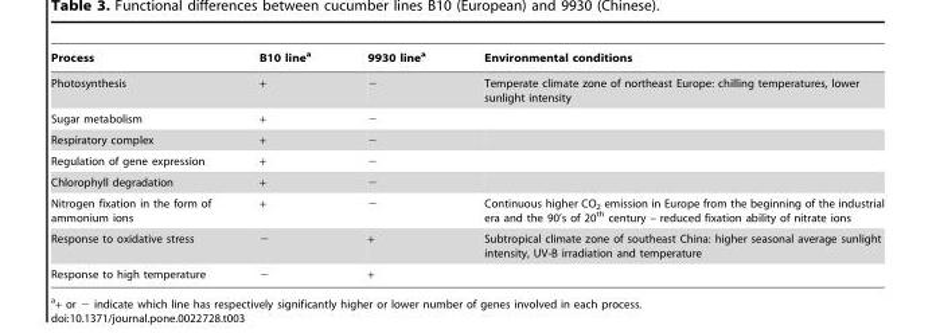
<table><thead><tr><td>Process</td><td>B10 line<sup>a</sup></td><td>9930 line<sup>a</sup></td><td>Environmental conditions</td></tr></thead><tbody><tr><td>Photosynthesis</td><td>+</td><td>−</td><td>Temperate climate zone of northeast Europe: chilling temperatures, lower sunlight intensity</td></tr><tr><td>Sugar metabolism</td><td>+</td><td>−</td><td></td></tr><tr><td>Respiratory complex</td><td>+</td><td>−</td><td></td></tr><tr><td>Regulation of gene expression</td><td>+</td><td>−</td><td></td></tr><tr><td>Chlorophyll degradation</td><td>+</td><td>−</td><td></td></tr><tr><td>Nitrogen fixation in the form of ammonium ions</td><td>+</td><td>−</td><td>Continuous higher CO<sub>2</sub> emission in Europe from the beginning of the industrial era and the 90’s of 20<sup>th</sup> century – reduced fixation ability of nitrate ions</td></tr><tr><td>Response to oxidative stress</td><td>−</td><td>+</td><td>Subtropical climate zone of southeast China: higher seasonal average sunlight intensity, UV-B irradiation and temperature</td></tr><tr><td>Response to high temperature</td><td>−</td><td>+</td><td></td></tr></tbody></table>